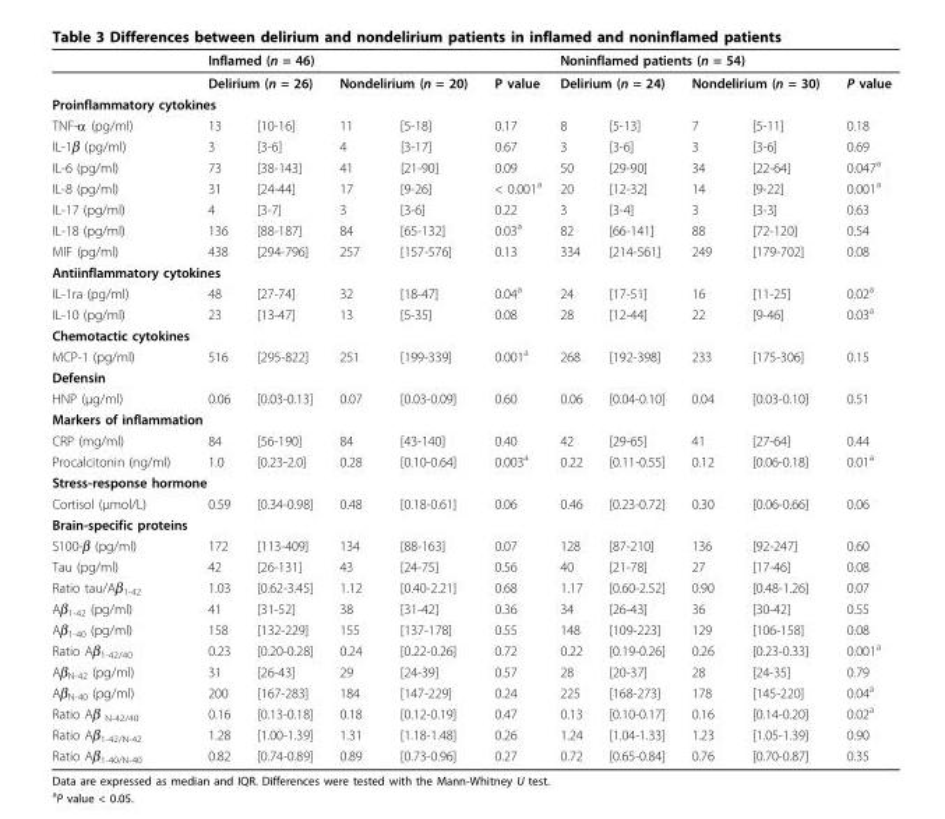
<table><thead><tr><td rowspan="2"></td><td colspan="5">Inflamed (n = 46)</td><td colspan="5">Noninflamed patients (n = 54)</td></tr><tr><td colspan="2">Delirium (n = 26)</td><td colspan="2">Nondelirium (n = 20)</td><td rowspan="3">P value 0.17</td><td colspan="2">Delirium (n = 24)</td><td colspan="2">Nondelirium (n = 30)</td><td rowspan="3">P value 0.18</td></tr><tr><td colspan="3">Proinflammatory cytokines</td><td rowspan="2">11</td><td rowspan="2">[5-18]</td><td rowspan="2">8</td><td rowspan="2">[5-13]</td><td rowspan="2">7</td><td rowspan="2">[5-11]</td></tr><tr><td>TNF-α (pg/ml)</td><td>13</td><td>[10-16]</td></tr></thead><tbody><tr><td>IL-1β (pg/ml)</td><td>3</td><td>[3-6]</td><td>4</td><td>[3-17]</td><td>0.67</td><td>3</td><td>[3-6]</td><td>3</td><td>[3-6]</td><td>0.69</td></tr><tr><td>IL-6 (pg/ml)</td><td>73</td><td>[38-143]</td><td>41</td><td>[21-90]</td><td>0.09</td><td>50</td><td>[29-90]</td><td>34</td><td>[22-64]</td><td>0.047<sup>a</sup></td></tr><tr><td>IL-8 (pg/ml)</td><td>31</td><td>[24-44]</td><td>17</td><td>[9-26]</td><td>&lt; 0.001<sup>a</sup></td><td>20</td><td>[12-32]</td><td>14</td><td>[9-22]</td><td>0.001<sup>a</sup></td></tr><tr><td>IL-17 (pg/ml)</td><td>4</td><td>[3-7]</td><td>3</td><td>[3-6]</td><td>0.22</td><td>3</td><td>[3-4]</td><td>3</td><td>[3-3]</td><td>0.63</td></tr><tr><td>IL-18 (pg/ml)</td><td>136</td><td>[88-187]</td><td>84</td><td>[65-132]</td><td>0.03<sup>a</sup></td><td>82</td><td>[66-141]</td><td>88</td><td>[72-120]</td><td>0.54</td></tr><tr><td>MIF (pg/ml)</td><td>438</td><td>[294-796]</td><td>257</td><td>[157-576]</td><td>0.13</td><td>334</td><td>[214-561]</td><td>249</td><td>[179-702]</td><td>0.08</td></tr><tr><td colspan="11">Antiinflammatory cytokines</td></tr><tr><td>IL-1ra (pg/ml)</td><td>48</td><td>[27-74]</td><td>32</td><td>[18-47]</td><td>0.04<sup>a</sup></td><td>24</td><td>[17-51]</td><td>16</td><td>[11-25]</td><td>0.02<sup>a</sup></td></tr><tr><td>IL-10 (pg/ml)</td><td>23</td><td>[13-47]</td><td>13</td><td>[5-35]</td><td>0.08</td><td>28</td><td>[12-44]</td><td>22</td><td>[9-46]</td><td>0.03<sup>a</sup></td></tr><tr><td colspan="11">Chemotactic cytokines</td></tr><tr><td>MCP-1 (pg/ml)</td><td>516</td><td>[295-822]</td><td>251</td><td>[199-339]</td><td>0.001<sup>a</sup></td><td>268</td><td>[192-398]</td><td>233</td><td>[175-306]</td><td>0.15</td></tr><tr><td colspan="11">Defensin</td></tr><tr><td>HNP (μg/ml)</td><td>0.06</td><td>[0.03-0.13]</td><td>0.07</td><td>[0.03-0.09]</td><td>0.60</td><td>0.06</td><td>[0.04-0.10]</td><td>0.04</td><td>[0.03-0.10]</td><td>0.51</td></tr><tr><td colspan="11">Markers of inflammation</td></tr><tr><td>CRP (mg/ml)</td><td>84</td><td>[56-190]</td><td>84</td><td>[43-140]</td><td>0.40</td><td>42</td><td>[29-65]</td><td>41</td><td>[27-64]</td><td>0.44</td></tr><tr><td>Procalcitonin (ng/ml)</td><td>1.0</td><td>[0.23-2.0]</td><td>0.28</td><td>[0.10-0.64]</td><td>0.003<sup>a</sup></td><td>0.22</td><td>[0.11-0.55]</td><td>0.12</td><td>[0.06-0.18]</td><td>0.01<sup>a</sup></td></tr><tr><td colspan="11">Stress-response hormone</td></tr><tr><td>Cortisol (μmol/L)</td><td>0.59</td><td>[0.34-0.98]</td><td>0.48</td><td>[0.18-0.61]</td><td>0.06</td><td>0.46</td><td>[0.23-0.72]</td><td>0.30</td><td>[0.06-0.66]</td><td>0.06</td></tr><tr><td colspan="11">Brain-specific proteins</td></tr><tr><td>S100-β (pg/ml)</td><td>172</td><td>[113-409]</td><td>134</td><td>[88-163]</td><td>0.07</td><td>128</td><td>[87-210]</td><td>136</td><td>[92-247]</td><td>0.60</td></tr><tr><td>Tau (pg/ml)</td><td>42</td><td>[26-131]</td><td>43</td><td>[24-75]</td><td>0.56</td><td>40</td><td>[21-78]</td><td>27</td><td>[17-46]</td><td>0.08</td></tr><tr><td>Ratio tau/Aβ<sub>1-42</sub></td><td>1.03</td><td>[0.62-3.45]</td><td>1.12</td><td>[0.40-2.21]</td><td>0.68</td><td>1.17</td><td>[0.60-2.52]</td><td>0.90</td><td>[0.48-1.26]</td><td>0.07</td></tr><tr><td>Aβ<sub>1-42</sub> (pg/ml)</td><td>41</td><td>[31-52]</td><td>38</td><td>[31-42]</td><td>0.36</td><td>34</td><td>[26-43]</td><td>36</td><td>[30-42]</td><td>0.55</td></tr><tr><td>Aβ<sub>1-40</sub> (pg/ml)</td><td>158</td><td>[132-229]</td><td>155</td><td>[137-178]</td><td>0.55</td><td>148</td><td>[109-223]</td><td>129</td><td>[106-158]</td><td>0.08</td></tr><tr><td>Ratio Aβ<sub>1-42/40</sub></td><td>0.23</td><td>[0.20-0.28]</td><td>0.24</td><td>[0.22-0.26]</td><td>0.72</td><td>0.22</td><td>[0.19-0.26]</td><td>0.26</td><td>[0.23-0.33]</td><td>0.001<sup>a</sup></td></tr><tr><td>Aβ<sub>N-42</sub> (pg/ml)</td><td>31</td><td>[26-43]</td><td>29</td><td>[24-39]</td><td>0.57</td><td>28</td><td>[20-37]</td><td>28</td><td>[24-35]</td><td>0.79</td></tr><tr><td>Aβ<sub>N-40</sub> (pg/ml)</td><td>200</td><td>[167-283]</td><td>184</td><td>[147-229]</td><td>0.24</td><td>225</td><td>[168-273]</td><td>178</td><td>[145-220]</td><td>0.04<sup>a</sup></td></tr><tr><td>Ratio Aβ <sub>N-42/40</sub></td><td>0.16</td><td>[0.13-0.18]</td><td>0.18</td><td>[0.12-0.19]</td><td>0.47</td><td>0.13</td><td>[0.10-0.17]</td><td>0.16</td><td>[0.14-0.20]</td><td>0.02<sup>a</sup></td></tr><tr><td>Ratio Aβ<sub>1-42/N-42</sub></td><td>1.28</td><td>[1.00-1.39]</td><td>1.31</td><td>[1.18-1.48]</td><td>0.26</td><td>1.24</td><td>[1.04-1.33]</td><td>1.23</td><td>[1.05-1.39]</td><td>0.90</td></tr><tr><td>Ratio Aβ<sub>1-40/N-40</sub></td><td>0.82</td><td>[0.74-0.89]</td><td>0.89</td><td>[0.73-0.96]</td><td>0.27</td><td>0.72</td><td>[0.65-0.84]</td><td>0.76</td><td>[0.70-0.87]</td><td>0.35</td></tr></tbody></table>